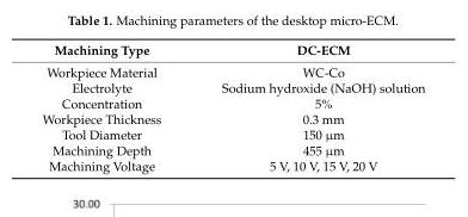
<table><thead><tr><td>Machining Type</td><td>DC-ECM</td></tr></thead><tbody><tr><td>Workpiece Material</td><td>WC-Co</td></tr><tr><td>Electrolyte</td><td>Sodium hydroxide (NaOH) solution</td></tr><tr><td>Concentration</td><td>5%</td></tr><tr><td>Workpiece Thickness</td><td>0.3 mm</td></tr><tr><td>Tool Diameter</td><td>150 µm</td></tr><tr><td>Machining Depth</td><td>455 µm</td></tr><tr><td>Machining Voltage</td><td>5 V, 10 V, 15 V, 20 V</td></tr></tbody></table>